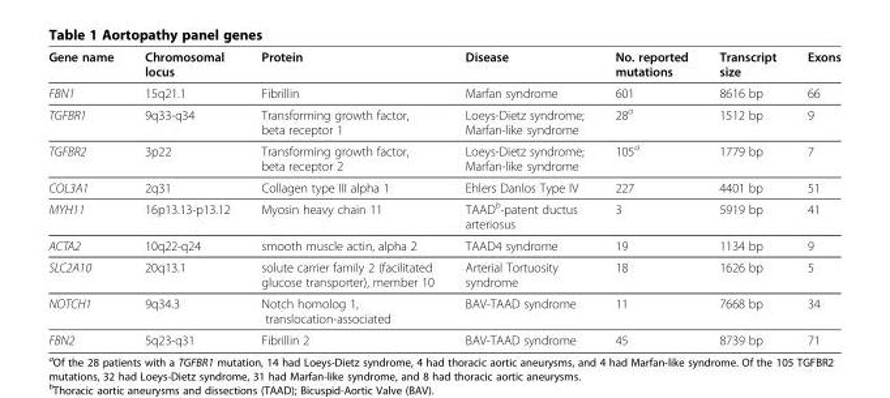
<table><thead><tr><td>Gene name</td><td>Chromosomal locus</td><td>Protein</td><td>Disease</td><td>No. reported mutations</td><td>Transcript size</td><td>Exons</td></tr></thead><tbody><tr><td>FBN1</td><td>15q21.1</td><td>Fibrillin</td><td>Marfan syndrome</td><td>601</td><td>8616 bp</td><td>66</td></tr><tr><td>TGFΒR1</td><td>9q33-q34</td><td>Transforming growth factor, beta receptor 1</td><td>Loeys-Dietz syndrome; Marfan-like syndrome</td><td>28<sup>a</sup></td><td>1512 bp</td><td>9</td></tr><tr><td>TGFΒR2</td><td>3p22</td><td>Transforming growth factor, beta receptor 2</td><td>Loeys-Dietz syndrome; Marfan-like syndrome</td><td>105<sup>a</sup></td><td>1779 bp</td><td>7</td></tr><tr><td>COL3A1</td><td>2q31</td><td>Collagen type III alpha 1</td><td>Ehlers Danlos Type IV</td><td>227</td><td>4401 bp</td><td>51</td></tr><tr><td>MYH11</td><td>16p13.13-p13.12</td><td>Myosin heavy chain 11</td><td>TAAD<sup>b</sup>-patent ductus arteriosus</td><td>3</td><td>5919 bp</td><td>41</td></tr><tr><td>ACTA2</td><td>10q22-q24</td><td>smooth muscle actin, alpha 2</td><td>TAAD4 syndrome</td><td>19</td><td>1134 bp</td><td>9</td></tr><tr><td>SLC2A10</td><td>20q13.1</td><td>solute carrier family 2 (facilitated glucose transporter), member 10</td><td>Arterial Tortuosity syndrome</td><td>18</td><td>1626 bp</td><td>5</td></tr><tr><td>NOTCH1</td><td>9q34.3</td><td>Notch homolog 1, translocation-associated</td><td>BAV-TAAD syndrome</td><td>11</td><td>7668 bp</td><td>34</td></tr><tr><td>FBN2</td><td>5q23-q31</td><td>Fibrillin 2</td><td>BAV-TAAD syndrome</td><td>45</td><td>8739 bp</td><td>71</td></tr></tbody></table>